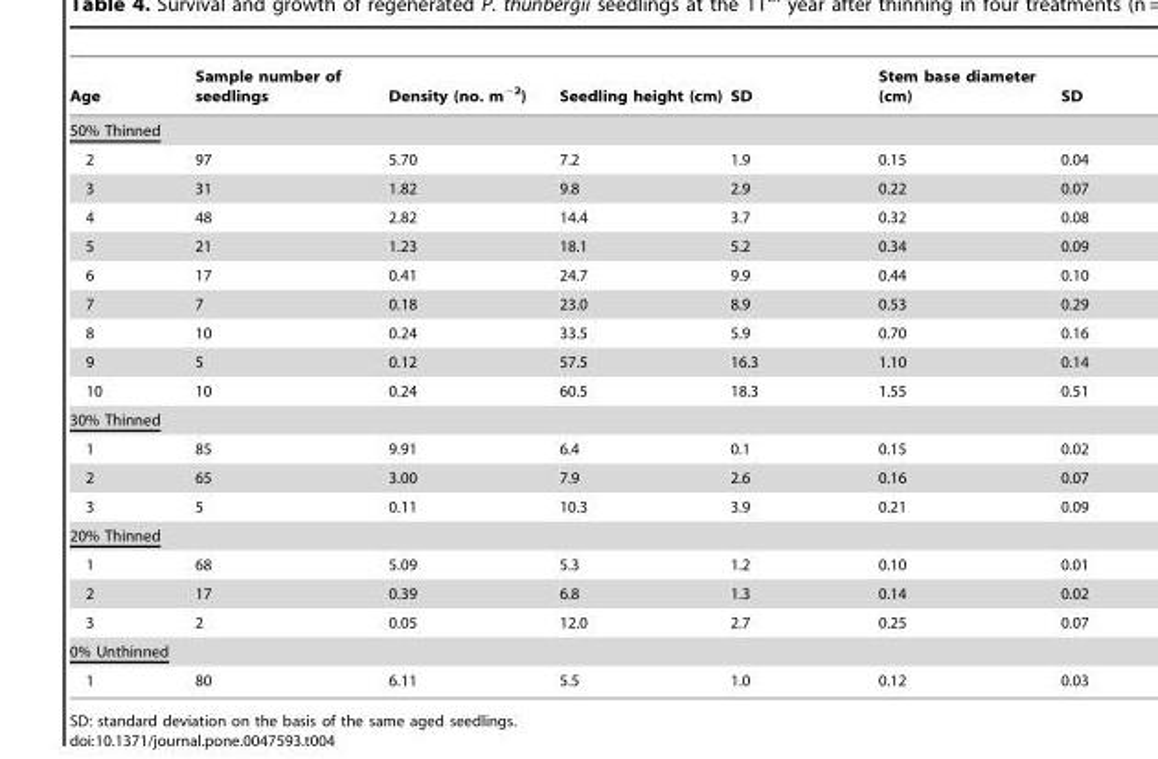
<table><thead><tr><td>Age</td><td>Sample number of seedlings</td><td>Density (no. m<sup>−2</sup>)</td><td>Seedling height (cm)</td><td>SD</td><td>Stem base diameter (cm)</td><td>SD</td></tr></thead><tbody><tr><td colspan="7">50% Thinned</td></tr><tr><td>2</td><td>97</td><td>5.70</td><td>7.2</td><td>1.9</td><td>0.15</td><td>0.04</td></tr><tr><td>3</td><td>31</td><td>1.82</td><td>9.8</td><td>2.9</td><td>0.22</td><td>0.07</td></tr><tr><td>4</td><td>48</td><td>2.82</td><td>14.4</td><td>3.7</td><td>0.32</td><td>0.08</td></tr><tr><td>5</td><td>21</td><td>1.23</td><td>18.1</td><td>5.2</td><td>0.34</td><td>0.09</td></tr><tr><td>6</td><td>17</td><td>0.41</td><td>24.7</td><td>9.9</td><td>0.44</td><td>0.10</td></tr><tr><td>7</td><td>7</td><td>0.18</td><td>23.0</td><td>8.9</td><td>0.53</td><td>0.29</td></tr><tr><td>8</td><td>10</td><td>0.24</td><td>33.5</td><td>5.9</td><td>0.70</td><td>0.16</td></tr><tr><td>9</td><td>5</td><td>0.12</td><td>57.5</td><td>16.3</td><td>1.10</td><td>0.14</td></tr><tr><td>10</td><td>10</td><td>0.24</td><td>60.5</td><td>18.3</td><td>1.55</td><td>0.51</td></tr><tr><td colspan="7">30% Thinned</td></tr><tr><td>1</td><td>85</td><td>9.91</td><td>6.4</td><td>0.1</td><td>0.15</td><td>0.02</td></tr><tr><td>2</td><td>65</td><td>3.00</td><td>7.9</td><td>2.6</td><td>0.16</td><td>0.07</td></tr><tr><td>3</td><td>5</td><td>0.11</td><td>10.3</td><td>3.9</td><td>0.21</td><td>0.09</td></tr><tr><td colspan="7">20% Thinned</td></tr><tr><td>1</td><td>68</td><td>5.09</td><td>5.3</td><td>1.2</td><td>0.10</td><td>0.01</td></tr><tr><td>2</td><td>17</td><td>0.39</td><td>6.8</td><td>1.3</td><td>0.14</td><td>0.02</td></tr><tr><td>3</td><td>2</td><td>0.05</td><td>12.0</td><td>2.7</td><td>0.25</td><td>0.07</td></tr><tr><td colspan="7">0% Unthinned</td></tr><tr><td>1</td><td>80</td><td>6.11</td><td>5.5</td><td>1.0</td><td>0.12</td><td>0.03</td></tr></tbody></table>